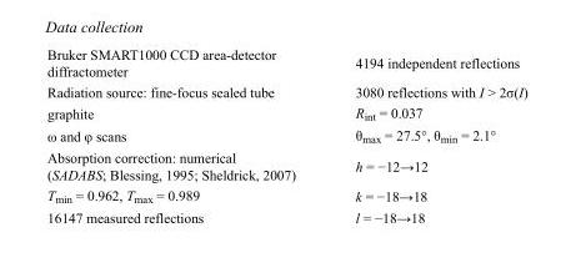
<table><tbody><tr><td>Bruker SMART1000 CCD area-detector diffractometer</td><td>4194 independent reflections</td></tr><tr><td>Radiation source: fine-focus sealed tube</td><td>3080 reflections with I &gt; 2σ(I)</td></tr><tr><td>graphite</td><td>R<sub>int</sub> = 0.037</td></tr><tr><td>ω and φ scans</td><td>θ<sub>max</sub> = 27.5°, θ<sub>min</sub> = 2.1°</td></tr><tr><td>Absorption correction: numerical (SADABS; Blessing, 1995; Sheldrick, 2007)</td><td>h = −12→12</td></tr><tr><td>T<sub>min</sub> = 0.962, T<sub>max</sub> = 0.989</td><td>k = −18→18</td></tr><tr><td>16147 measured reflections</td><td>l = −18→18</td></tr></tbody></table>